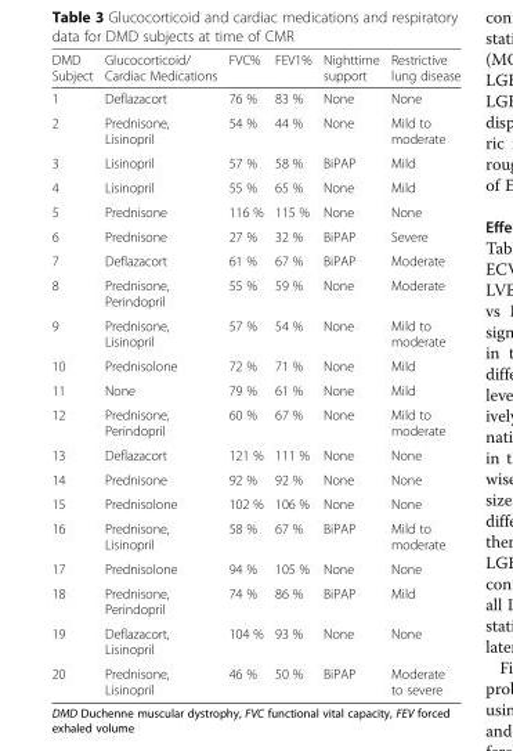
<table><thead><tr><td>DMD Subject</td><td>Glucocorticoid/ Cardiac Medications</td><td>FVC%</td><td>FEV1%</td><td>Nighttime support</td><td>Restrictive lung disease</td></tr></thead><tbody><tr><td>1</td><td>Deflazacort</td><td>76 %</td><td>83 %</td><td>None</td><td>None</td></tr><tr><td>2</td><td>Prednisone, Lisinopril</td><td>54 %</td><td>44 %</td><td>None</td><td>Mild to moderate</td></tr><tr><td>3</td><td>Lisinopril</td><td>57 %</td><td>58 %</td><td>BiPAP</td><td>Mild</td></tr><tr><td>4</td><td>Lisinopril</td><td>55 %</td><td>65 %</td><td>None</td><td>Mild</td></tr><tr><td>5</td><td>Prednisone</td><td>116 %</td><td>115 %</td><td>None</td><td>None</td></tr><tr><td>6</td><td>Prednisone</td><td>27 %</td><td>32 %</td><td>BiPAP</td><td>Severe</td></tr><tr><td>7</td><td>Deflazacort</td><td>61 %</td><td>67 %</td><td>BiPAP</td><td>Moderate</td></tr><tr><td>8</td><td>Prednisone, Perindopril</td><td>55 %</td><td>59 %</td><td>None</td><td>Moderate</td></tr><tr><td>9</td><td>Prednisone, Lisinopril</td><td>57 %</td><td>54 %</td><td>None</td><td>Mild to moderate</td></tr><tr><td>10</td><td>Prednisolone</td><td>72 %</td><td>71 %</td><td>None</td><td>Mild</td></tr><tr><td>11</td><td>None</td><td>79 %</td><td>61 %</td><td>None</td><td>Mild</td></tr><tr><td>12</td><td>Prednisone, Perindopril</td><td>60 %</td><td>67 %</td><td>None</td><td>Mild to moderate</td></tr><tr><td>13</td><td>Deflazacort</td><td>121 %</td><td>111 %</td><td>None</td><td>None</td></tr><tr><td>14</td><td>Prednisone</td><td>92 %</td><td>92 %</td><td>None</td><td>None</td></tr><tr><td>15</td><td>Prednisolone</td><td>102 %</td><td>106 %</td><td>None</td><td>None</td></tr><tr><td>16</td><td>Prednisone, Lisinopril</td><td>58 %</td><td>67 %</td><td>BiPAP</td><td>Mild to moderate</td></tr><tr><td>17</td><td>Prednisolone</td><td>94 %</td><td>105 %</td><td>None</td><td>None</td></tr><tr><td>18</td><td>Prednisone, Perindopril</td><td>74 %</td><td>86 %</td><td>BiPAP</td><td>Mild</td></tr><tr><td>19</td><td>Deflazacort, Lisinopril</td><td>104 %</td><td>93 %</td><td>None</td><td>None</td></tr><tr><td>20</td><td>Prednisone, Lisinopril</td><td>46 %</td><td>50 %</td><td>BiPAP</td><td>Moderate to severe</td></tr></tbody></table>